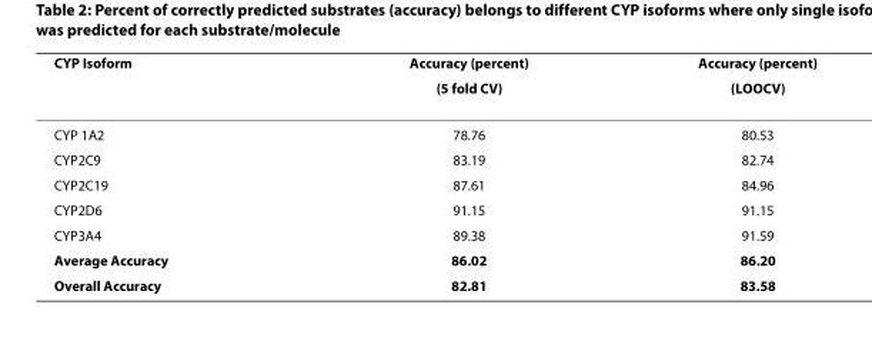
<table><thead><tr><td rowspan="2">CYP Isoform</td><td rowspan="2">Accuracy (percent) (5 fold CV)</td><td rowspan="2">Accuracy (percent) (LOOCV)</td></tr><tr></tr></thead><tbody><tr><td>CYP 1A2</td><td>78.76</td><td>80.53</td></tr><tr><td>CYP2C9</td><td>83.19</td><td>82.74</td></tr><tr><td>CYP2C19</td><td>87.61</td><td>84.96</td></tr><tr><td>CYP2D6</td><td>91.15</td><td>91.15</td></tr><tr><td>CYP3A4</td><td>89.38</td><td>91.59</td></tr><tr><td>Average Accuracy</td><td>86.02</td><td>86.20</td></tr><tr><td>Overall Accuracy</td><td>82.81</td><td>83.58</td></tr></tbody></table>